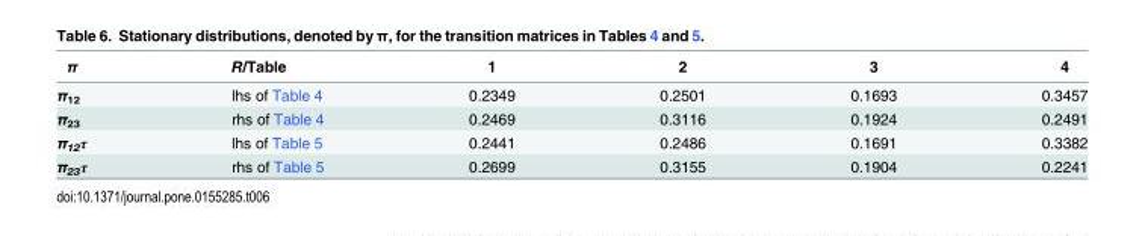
<table><thead><tr><td>π</td><td>R/Table</td><td>1</td><td>2</td><td>3</td><td>4</td></tr></thead><tbody><tr><td>π<sub>12</sub></td><td>lhs of Table 4</td><td>0.2349</td><td>0.2501</td><td>0.1693</td><td>0.3457</td></tr><tr><td>π<sub>23</sub></td><td>rhs of Table 4</td><td>0.2469</td><td>0.3116</td><td>0.1924</td><td>0.2491</td></tr><tr><td>π<sub>12</sub>τ</td><td>lhs of Table 5</td><td>0.2441</td><td>0.2486</td><td>0.1691</td><td>0.3382</td></tr><tr><td>π<sub>23</sub>τ</td><td>rhs of Table 5</td><td>0.2699</td><td>0.3155</td><td>0.1904</td><td>0.2241</td></tr></tbody></table>